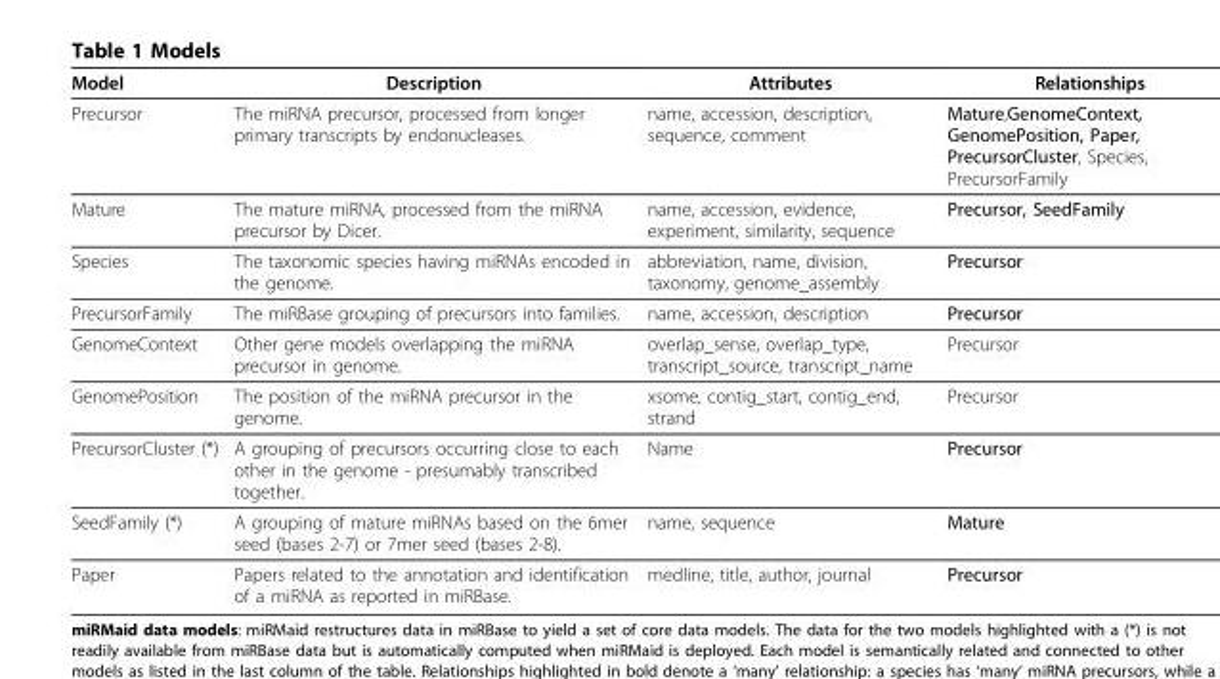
<table><thead><tr><td>Model</td><td>Description</td><td>Attributes</td><td>Relationships</td></tr></thead><tbody><tr><td>Precursor</td><td>The miRNA precursor, processed from longer primary transcripts by endonucleases.</td><td>name, accession, description, sequence, comment</td><td>Mature,GenomeContext, GenomePosition, Paper, PrecursorCluster, Species, PrecursorFamily</td></tr><tr><td>Mature</td><td>The mature miRNA, processed from the miRNA precursor by Dicer.</td><td>name, accession, evidence, experiment, similarity, sequence</td><td>Precursor, SeedFamily</td></tr><tr><td>Species</td><td>The taxonomic species having miRNAs encoded in the genome.</td><td>abbreviation, name, division, taxonomy, genome_assembly</td><td>Precursor</td></tr><tr><td>PrecursorFamily</td><td>The miRBase grouping of precursors into families.</td><td>name, accession, description</td><td>Precursor</td></tr><tr><td>GenomeContext</td><td>Other gene models overlapping the miRNA precursor in genome.</td><td>overlap_sense, overlap_type, transcript_source, transcript_name</td><td>Precursor</td></tr><tr><td>GenomePosition</td><td>The position of the miRNA precursor in the genome.</td><td>xsome, contig_start, contig_end, strand</td><td>Precursor</td></tr><tr><td>PrecursorCluster (*)</td><td>A grouping of precursors occurring close to each other in the genome - presumably transcribed together.</td><td>Name</td><td>Precursor</td></tr><tr><td>SeedFamily (*)</td><td>A grouping of mature miRNAs based on the 6mer seed (bases 2-7) or 7mer seed (bases 2-8).</td><td>name, sequence</td><td>Mature</td></tr><tr><td>Paper</td><td>Papers related to the annotation and identification of a miRNA as reported in miRBase.</td><td>medline, title, author, journal</td><td>Precursor</td></tr></tbody></table>